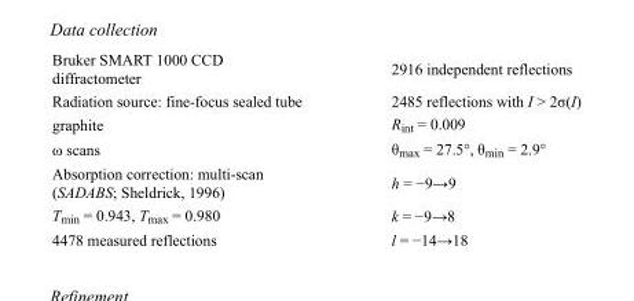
<table><tbody><tr><td>Bruker SMART 1000 CCD diffractometer</td><td>2916 independent reflections</td></tr><tr><td>Radiation source: fine-focus sealed tube</td><td>2485 reflections with I &gt; 2σ(I)</td></tr><tr><td>graphite</td><td>R<sub>int</sub> = 0.009</td></tr><tr><td>ω scans</td><td>θ<sub>max</sub> = 27.5°, θ<sub>min</sub> = 2.9°</td></tr><tr><td>Absorption correction: multi-scan (SADABS; Sheldrick, 1996)</td><td>h = −9→9</td></tr><tr><td>T<sub>min</sub> = 0.943, T<sub>max</sub> = 0.980</td><td>k = −9→8</td></tr><tr><td>4478 measured reflections</td><td>l = −14→18</td></tr></tbody></table>